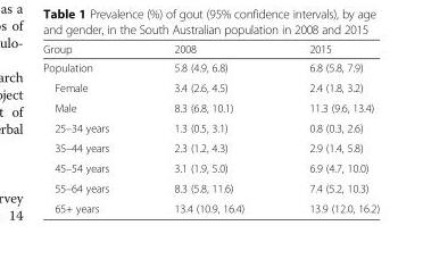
<table><thead><tr><td>Group</td><td>2008</td><td>2015</td></tr></thead><tbody><tr><td>Population</td><td>5.8 (4.9, 6.8)</td><td>6.8 (5.8, 7.9)</td></tr><tr><td>Female</td><td>3.4 (2.6, 4.5)</td><td>2.4 (1.8, 3.2)</td></tr><tr><td>Male</td><td>8.3 (6.8, 10.1)</td><td>11.3 (9.6, 13.4)</td></tr><tr><td>25–34 years</td><td>1.3 (0.5, 3.1)</td><td>0.8 (0.3, 2.6)</td></tr><tr><td>35–44 years</td><td>2.3 (1.2, 4.3)</td><td>2.9 (1.4, 5.8)</td></tr><tr><td>45–54 years</td><td>3.1 (1.9, 5.0)</td><td>6.9 (4.7, 10.0)</td></tr><tr><td>55–64 years</td><td>8.3 (5.8, 11.6)</td><td>7.4 (5.2, 10.3)</td></tr><tr><td>65+ years</td><td>13.4 (10.9, 16.4)</td><td>13.9 (12.0, 16.2)</td></tr></tbody></table>